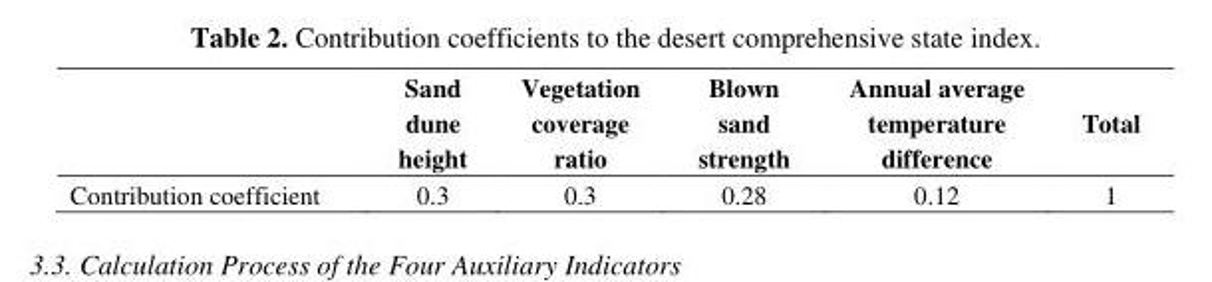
<table><thead><tr><td></td><td>Sand dune height</td><td>Vegetation coverage ratio</td><td>Blown sand strength</td><td>Annual average temperature difference</td><td>Total</td></tr></thead><tbody><tr><td>Contribution coefficient</td><td>0.3</td><td>0.3</td><td>0.28</td><td>0.12</td><td>1</td></tr></tbody></table>